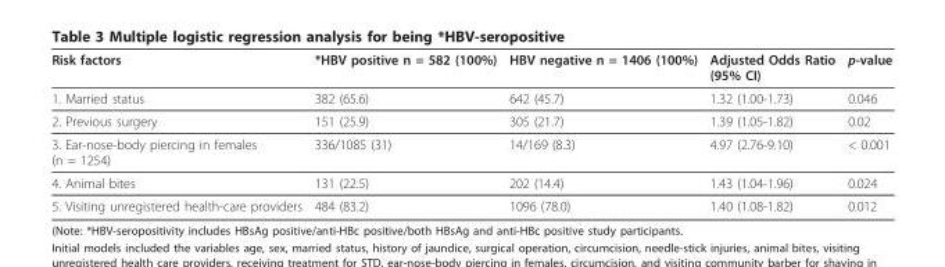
<table><thead><tr><td>Risk factors</td><td>*HBV positive n = 582 (100%)</td><td>HBV negative n = 1406 (100%)</td><td>Adjusted Odds Ratio (95% CI)</td><td>p-value</td></tr></thead><tbody><tr><td>1. Married status</td><td>382 (65.6)</td><td>642 (45.7)</td><td>1.32 (1.00-1.73)</td><td>0.046</td></tr><tr><td>2. Previous surgery</td><td>151 (25.9)</td><td>305 (21.7)</td><td>1.39 (1.05-1.82)</td><td>0.02</td></tr><tr><td>3. Ear-nose-body piercing in females (n = 1254)</td><td>336/1085 (31)</td><td>14/169 (8.3)</td><td>4.97 (2.76-9.10)</td><td>&lt; 0.001</td></tr><tr><td>4. Animal bites</td><td>131 (22.5)</td><td>202 (14.4)</td><td>1.43 (1.04-1.96)</td><td>0.024</td></tr><tr><td>5. Visiting unregistered health-care providers</td><td>484 (83.2)</td><td>1096 (78.0)</td><td>1.40 (1.08-1.82)</td><td>0.012</td></tr></tbody></table>